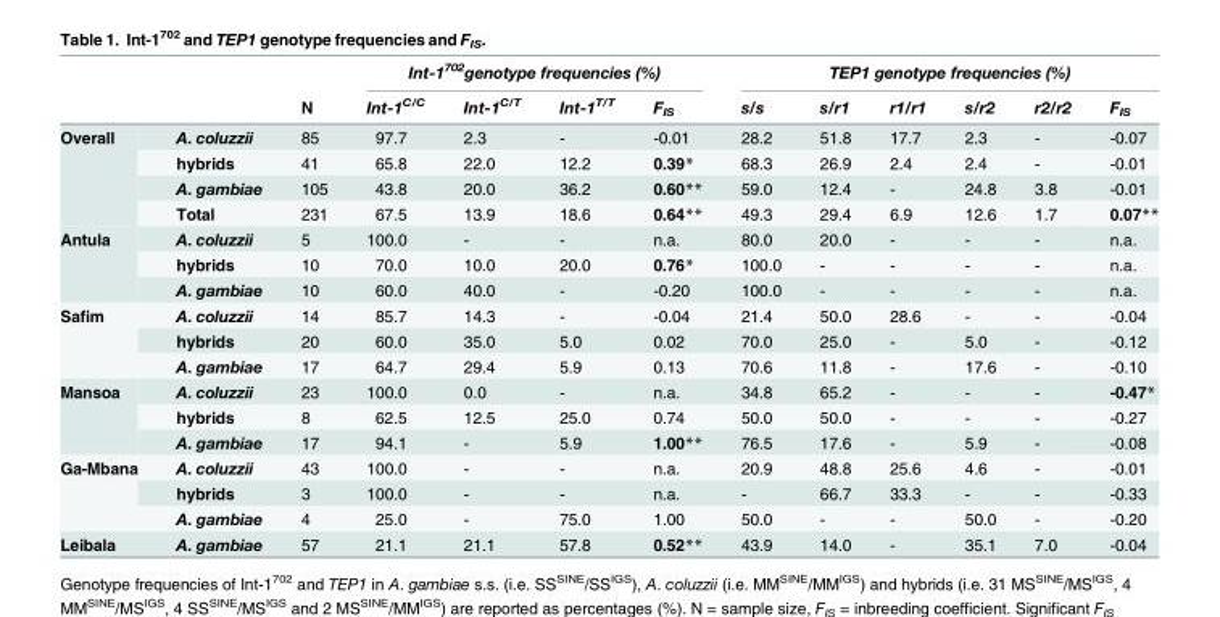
<table><thead><tr><td rowspan="2"></td><td rowspan="2"></td><td rowspan="2">N</td><td colspan="4">Int-1<sup>702</sup>genotype frequencies (%)</td><td colspan="6">TEP1 genotype frequencies (%)</td></tr><tr><td>Int-1<sup>C/C</sup></td><td>Int-1<sup>C/T</sup></td><td>Int-1<sup>T/T</sup></td><td>F<sub>IS</sub></td><td>s/s</td><td>s/r1</td><td>r1/r1</td><td>s/r2</td><td>r2/r2</td><td>F<sub>IS</sub></td></tr></thead><tbody><tr><td rowspan="4">Overall</td><td>A. coluzzii</td><td>85</td><td>97.7</td><td>2.3</td><td>-</td><td>-0.01</td><td>28.2</td><td>51.8</td><td>17.7</td><td>2.3</td><td>-</td><td>-0.07</td></tr><tr><td>hybrids</td><td>41</td><td>65.8</td><td>22.0</td><td>12.2</td><td>0.39*</td><td>68.3</td><td>26.9</td><td>2.4</td><td>2.4</td><td>-</td><td>-0.01</td></tr><tr><td>A. gambiae</td><td>105</td><td>43.8</td><td>20.0</td><td>36.2</td><td>0.60**</td><td>59.0</td><td>12.4</td><td>-</td><td>24.8</td><td>3.8</td><td>-0.01</td></tr><tr><td>Total</td><td>231</td><td>67.5</td><td>13.9</td><td>18.6</td><td>0.64**</td><td>49.3</td><td>29.4</td><td>6.9</td><td>12.6</td><td>1.7</td><td>0.07**</td></tr><tr><td rowspan="3">Antula</td><td>A. coluzzii</td><td>5</td><td>100.0</td><td>-</td><td>-</td><td>n.a.</td><td>80.0</td><td>20.0</td><td>-</td><td>-</td><td>-</td><td>n.a.</td></tr><tr><td>hybrids</td><td>10</td><td>70.0</td><td>10.0</td><td>20.0</td><td>0.76*</td><td>100.0</td><td>-</td><td>-</td><td>-</td><td>-</td><td>n.a.</td></tr><tr><td>A. gambiae</td><td>10</td><td>60.0</td><td>40.0</td><td>-</td><td>-0.20</td><td>100.0</td><td>-</td><td>-</td><td>-</td><td>-</td><td>n.a.</td></tr><tr><td rowspan="3">Safim</td><td>A. coluzzii</td><td>14</td><td>85.7</td><td>14.3</td><td>-</td><td>-0.04</td><td>21.4</td><td>50.0</td><td>28.6</td><td>-</td><td>-</td><td>-0.04</td></tr><tr><td>hybrids</td><td>20</td><td>60.0</td><td>35.0</td><td>5.0</td><td>0.02</td><td>70.0</td><td>25.0</td><td>-</td><td>5.0</td><td>-</td><td>-0.12</td></tr><tr><td>A. gambiae</td><td>17</td><td>64.7</td><td>29.4</td><td>5.9</td><td>0.13</td><td>70.6</td><td>11.8</td><td>-</td><td>17.6</td><td>-</td><td>-0.10</td></tr><tr><td rowspan="3">Mansoa</td><td>A. coluzzii</td><td>23</td><td>100.0</td><td>0.0</td><td>-</td><td>n.a.</td><td>34.8</td><td>65.2</td><td>-</td><td>-</td><td>-</td><td>-0.47*</td></tr><tr><td>hybrids</td><td>8</td><td>62.5</td><td>12.5</td><td>25.0</td><td>0.74</td><td>50.0</td><td>50.0</td><td>-</td><td>-</td><td>-</td><td>-0.27</td></tr><tr><td>A. gambiae</td><td>17</td><td>94.1</td><td>-</td><td>5.9</td><td>1.00**</td><td>76.5</td><td>17.6</td><td>-</td><td>5.9</td><td>-</td><td>-0.08</td></tr><tr><td rowspan="3">Ga-Mbana</td><td>A. coluzzii</td><td>43</td><td>100.0</td><td>-</td><td>-</td><td>n.a.</td><td>20.9</td><td>48.8</td><td>25.6</td><td>4.6</td><td>-</td><td>-0.01</td></tr><tr><td>hybrids</td><td>3</td><td>100.0</td><td>-</td><td>-</td><td>n.a.</td><td>-</td><td>66.7</td><td>33.3</td><td>-</td><td>-</td><td>-0.33</td></tr><tr><td>A. gambiae</td><td>4</td><td>25.0</td><td>-</td><td>75.0</td><td>1.00</td><td>50.0</td><td>-</td><td>-</td><td>50.0</td><td>-</td><td>-0.20</td></tr><tr><td>Leibala</td><td>A. gambiae</td><td>57</td><td>21.1</td><td>21.1</td><td>57.8</td><td>0.52**</td><td>43.9</td><td>14.0</td><td>-</td><td>35.1</td><td>7.0</td><td>-0.04</td></tr></tbody></table>